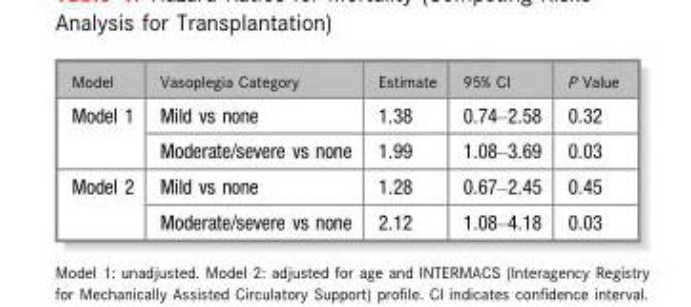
<table><thead><tr><td>Model</td><td>Vasoplegia Category</td><td>Estimate</td><td>95% CI</td><td>P Value</td></tr></thead><tbody><tr><td rowspan="2">Model 1</td><td>Mild vs none</td><td>1.38</td><td>0.74–2.58</td><td>0.32</td></tr><tr><td>Moderate/severe vs none</td><td>1.99</td><td>1.08–3.69</td><td>0.03</td></tr><tr><td rowspan="2">Model 2</td><td>Mild vs none</td><td>1.28</td><td>0.67–2.45</td><td>0.45</td></tr><tr><td>Moderate/severe vs none</td><td>2.12</td><td>1.08–4.18</td><td>0.03</td></tr></tbody></table>